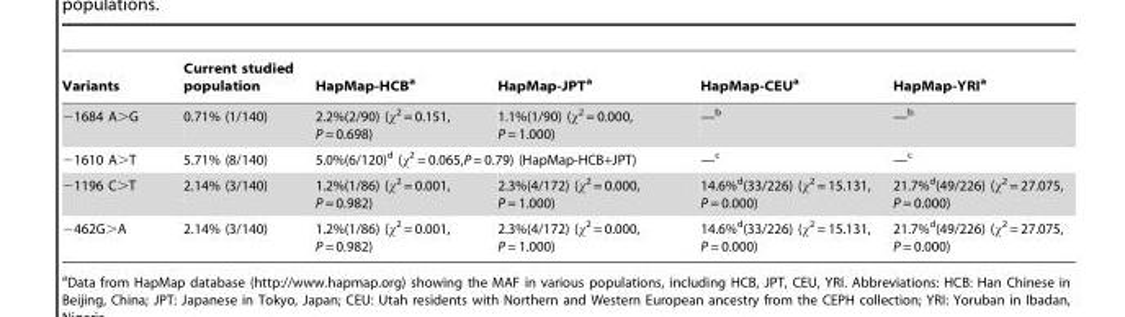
<table><thead><tr><td>Variants</td><td>Current studied population</td><td>HapMap-HCB<sup>a</sup></td><td>HapMap-JPT<sup>a</sup></td><td>HapMap-CEU<sup>a</sup></td><td>HapMap-YRI<sup>a</sup></td></tr></thead><tbody><tr><td>−1684 A&gt;G</td><td>0.71% (1/140)</td><td>2.2%(2/90) (χ<sup>2</sup> = 0.151, P = 0.698)</td><td>1.1%(1/90) (χ<sup>2</sup> = 0.000, P = 1.000)</td><td>—b</td><td>—b</td></tr><tr><td>−1610 A&gt;T</td><td>5.71% (8/140)</td><td colspan="2">5.0%(6/120)<sup>d</sup> (χ<sup>2</sup> = 0.065,P = 0.79) (HapMap-HCB+JPT)</td><td>—c</td><td>—c</td></tr><tr><td>−1196 C&gt;T</td><td>2.14% (3/140)</td><td>1.2%(1/86) (χ<sup>2</sup> = 0.001, P = 0.982)</td><td>2.3%(4/172) (χ<sup>2</sup> = 0.000, P = 1.000)</td><td>14.6%<sup>d</sup>(33/226) (χ<sup>2</sup> = 15.131, P = 0.000)</td><td>21.7%<sup>d</sup>(49/226) (χ<sup>2</sup> = 27.075, P = 0.000)</td></tr><tr><td>−462G&gt;A</td><td>2.14% (3/140)</td><td>1.2%(1/86) (χ<sup>2</sup> = 0.001, P = 0.982)</td><td>2.3%(4/172) (χ<sup>2</sup> = 0.000, P = 1.000)</td><td>14.6%<sup>d</sup>(33/226) (χ<sup>2</sup> = 15.131, P = 0.000)</td><td>21.7%<sup>d</sup>(49/226) (χ<sup>2</sup> = 27.075, P = 0.000)</td></tr></tbody></table>